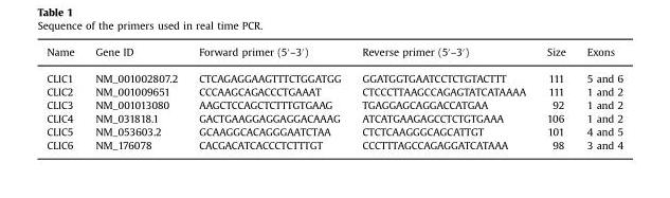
<table><thead><tr><td>Name</td><td>Gene ID</td><td>Forward primer (5′–3′)</td><td>Reverse primer (5′–3′)</td><td>Size</td><td>Exons</td></tr></thead><tbody><tr><td>CLIC1</td><td>NM_001002807.2</td><td>CTCAGAGGAAGTTTCTGGATGG</td><td>GGATGGTGAATCCTCTGTACTTT</td><td>111</td><td>5 and 6</td></tr><tr><td>CLIC2</td><td>NM_001009651</td><td>CCCAAGCAGACCCTGAAAT</td><td>CTCCCTTAAGCCAGAGTATCATAAAA</td><td>111</td><td>1 and 2</td></tr><tr><td>CLIC3</td><td>NM_001013080</td><td>AAGCTCCAGCTCTTTGTGAAG</td><td>TGAGGAGCAGGACCATGAA</td><td>92</td><td>1 and 2</td></tr><tr><td>CLIC4</td><td>NM_031818.1</td><td>GACTGAAGGAGGAGGACAAAG</td><td>ATCATGAAGAGCCTCTGTGAAA</td><td>106</td><td>1 and 2</td></tr><tr><td>CLIC5</td><td>NM_053603.2</td><td>GCAAGGCACAGGGAATCTAA</td><td>CTCTCAAGGGCAGCATTGT</td><td>101</td><td>4 and 5</td></tr><tr><td>CLIC6</td><td>NM_176078</td><td>CACGACATCACCCTCTTTGT</td><td>CCCTTTAGCCAGAGGATCATAAA</td><td>98</td><td>3 and 4</td></tr></tbody></table>